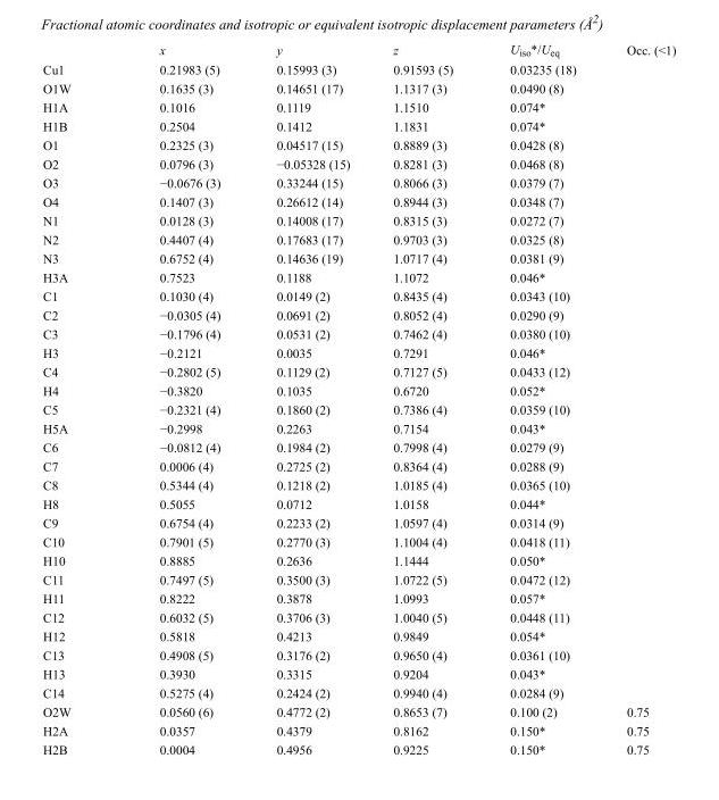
<table><thead><tr><td></td><td>x</td><td>y</td><td>z</td><td>U<sub>iso</sub>*/U<sub>eq</sub></td><td>Occ. (&lt;1)</td></tr></thead><tbody><tr><td>Cu1</td><td>0.21983 (5)</td><td>0.15993 (3)</td><td>0.91593 (5)</td><td>0.03235 (18)</td><td></td></tr><tr><td>O1W</td><td>0.1635 (3)</td><td>0.14651 (17)</td><td>1.1317 (3)</td><td>0.0490 (8)</td><td></td></tr><tr><td>H1A</td><td>0.1016</td><td>0.1119</td><td>1.1510</td><td>0.074*</td><td></td></tr><tr><td>H1B</td><td>0.2504</td><td>0.1412</td><td>1.1831</td><td>0.074*</td><td></td></tr><tr><td>O1</td><td>0.2325 (3)</td><td>0.04517 (15)</td><td>0.8889 (3)</td><td>0.0428 (8)</td><td></td></tr><tr><td>O2</td><td>0.0796 (3)</td><td>−0.05328 (15)</td><td>0.8281 (3)</td><td>0.0468 (8)</td><td></td></tr><tr><td>O3</td><td>−0.0676 (3)</td><td>0.33244 (15)</td><td>0.8066 (3)</td><td>0.0379 (7)</td><td></td></tr><tr><td>O4</td><td>0.1407 (3)</td><td>0.26612 (14)</td><td>0.8944 (3)</td><td>0.0348 (7)</td><td></td></tr><tr><td>N1</td><td>0.0128 (3)</td><td>0.14008 (17)</td><td>0.8315 (3)</td><td>0.0272 (7)</td><td></td></tr><tr><td>N2</td><td>0.4407 (4)</td><td>0.17683 (17)</td><td>0.9703 (3)</td><td>0.0325 (8)</td><td></td></tr><tr><td>N3</td><td>0.6752 (4)</td><td>0.14636 (19)</td><td>1.0717 (4)</td><td>0.0381 (9)</td><td></td></tr><tr><td>H3A</td><td>0.7523</td><td>0.1188</td><td>1.1072</td><td>0.046*</td><td></td></tr><tr><td>C1</td><td>0.1030 (4)</td><td>0.0149 (2)</td><td>0.8435 (4)</td><td>0.0343 (10)</td><td></td></tr><tr><td>C2</td><td>−0.0305 (4)</td><td>0.0691 (2)</td><td>0.8052 (4)</td><td>0.0290 (9)</td><td></td></tr><tr><td>C3</td><td>−0.1796 (4)</td><td>0.0531 (2)</td><td>0.7462 (4)</td><td>0.0380 (10)</td><td></td></tr><tr><td>H3</td><td>−0.2121</td><td>0.0035</td><td>0.7291</td><td>0.046*</td><td></td></tr><tr><td>C4</td><td>−0.2802 (5)</td><td>0.1129 (2)</td><td>0.7127 (5)</td><td>0.0433 (12)</td><td></td></tr><tr><td>H4</td><td>−0.3820</td><td>0.1035</td><td>0.6720</td><td>0.052*</td><td></td></tr><tr><td>C5</td><td>−0.2321 (4)</td><td>0.1860 (2)</td><td>0.7386 (4)</td><td>0.0359 (10)</td><td></td></tr><tr><td>H5A</td><td>−0.2998</td><td>0.2263</td><td>0.7154</td><td>0.043*</td><td></td></tr><tr><td>C6</td><td>−0.0812 (4)</td><td>0.1984 (2)</td><td>0.7998 (4)</td><td>0.0279 (9)</td><td></td></tr><tr><td>C7</td><td>0.0006 (4)</td><td>0.2725 (2)</td><td>0.8364 (4)</td><td>0.0288 (9)</td><td></td></tr><tr><td>C8</td><td>0.5344 (4)</td><td>0.1218 (2)</td><td>1.0185 (4)</td><td>0.0365 (10)</td><td></td></tr><tr><td>H8</td><td>0.5055</td><td>0.0712</td><td>1.0158</td><td>0.044*</td><td></td></tr><tr><td>C9</td><td>0.6754 (4)</td><td>0.2233 (2)</td><td>1.0597 (4)</td><td>0.0314 (9)</td><td></td></tr><tr><td>C10</td><td>0.7901 (5)</td><td>0.2770 (3)</td><td>1.1004 (4)</td><td>0.0418 (11)</td><td></td></tr><tr><td>H10</td><td>0.8885</td><td>0.2636</td><td>1.1444</td><td>0.050*</td><td></td></tr><tr><td>C11</td><td>0.7497 (5)</td><td>0.3500 (3)</td><td>1.0722 (5)</td><td>0.0472 (12)</td><td></td></tr><tr><td>H11</td><td>0.8222</td><td>0.3878</td><td>1.0993</td><td>0.057*</td><td></td></tr><tr><td>C12</td><td>0.6032 (5)</td><td>0.3706 (3)</td><td>1.0040 (5)</td><td>0.0448 (11)</td><td></td></tr><tr><td>H12</td><td>0.5818</td><td>0.4213</td><td>0.9849</td><td>0.054*</td><td></td></tr><tr><td>C13</td><td>0.4908 (5)</td><td>0.3176 (2)</td><td>0.9650 (4)</td><td>0.0361 (10)</td><td></td></tr><tr><td>H13</td><td>0.3930</td><td>0.3315</td><td>0.9204</td><td>0.043*</td><td></td></tr><tr><td>C14</td><td>0.5275 (4)</td><td>0.2424 (2)</td><td>0.9940 (4)</td><td>0.0284 (9)</td><td></td></tr><tr><td>O2W</td><td>0.0560 (6)</td><td>0.4772 (2)</td><td>0.8653 (7)</td><td>0.100 (2)</td><td>0.75</td></tr><tr><td>H2A</td><td>0.0357</td><td>0.4379</td><td>0.8162</td><td>0.150*</td><td>0.75</td></tr><tr><td>H2B</td><td>0.0004</td><td>0.4956</td><td>0.9225</td><td>0.150*</td><td>0.75</td></tr></tbody></table>